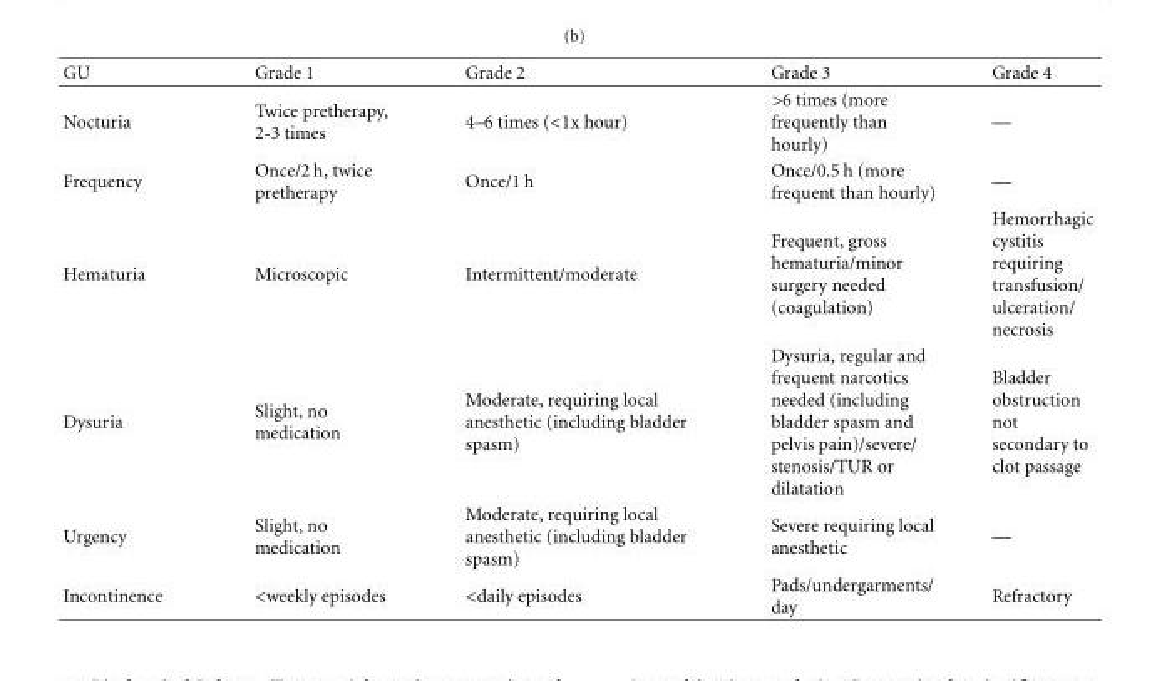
<table><thead><tr><td>GU</td><td>Grade 1</td><td>Grade 2</td><td>Grade 3</td><td>Grade 4</td></tr></thead><tbody><tr><td>Nocturia</td><td>Twice pretherapy, 2-3 times</td><td>4–6 times (&lt;1x hour)</td><td>&gt;6 times (more frequently than hourly)</td><td>—</td></tr><tr><td>Frequency</td><td>Once/2 h, twice pretherapy</td><td>Once/1 h</td><td>Once/0.5 h (more frequent than hourly)</td><td>—</td></tr><tr><td>Hematuria</td><td>Microscopic</td><td>Intermittent/moderate</td><td>Frequent, gross hematuria/minor surgery needed (coagulation)</td><td>Hemorrhagic cystitis requiring transfusion/ ulceration/ necrosis</td></tr><tr><td>Dysuria</td><td>Slight, no medication</td><td>Moderate, requiring local anesthetic (including bladder spasm)</td><td>Dysuria, regular and frequent narcotics needed (including bladder spasm and pelvis pain)/severe/ stenosis/TUR or dilatation</td><td>Bladder obstruction not secondary to clot passage</td></tr><tr><td>Urgency</td><td>Slight, no medication</td><td>Moderate, requiring local anesthetic (including bladder spasm)</td><td>Severe requiring local anesthetic</td><td>—</td></tr><tr><td>Incontinence</td><td>&lt;weekly episodes</td><td>&lt;daily episodes</td><td>Pads/undergarments/ day</td><td>Refractory</td></tr></tbody></table>